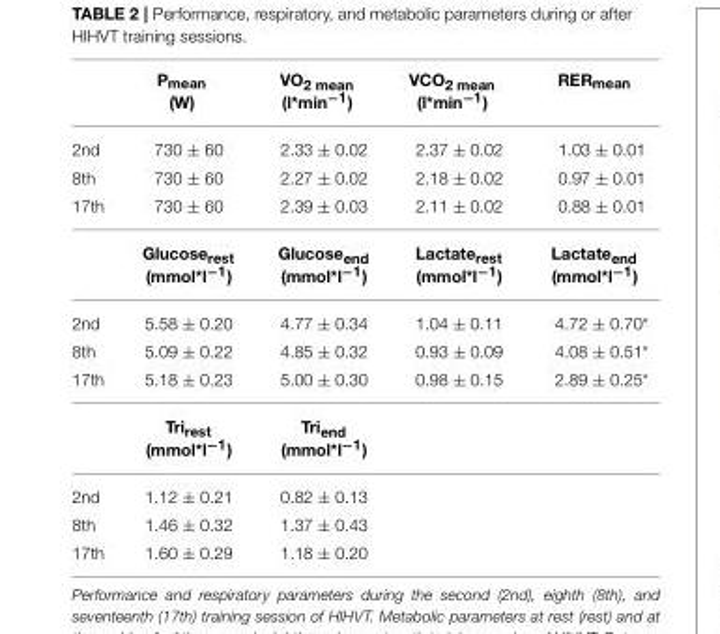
<table><thead><tr><td></td><td>P<sub>mean</sub> (W)</td><td>VO<sub>2 mean</sub> (l*min<sup>−1</sup>)</td><td>VCO<sub>2 mean</sub> (l*min<sup>−1</sup>)</td><td>RER<sub>mean</sub></td></tr></thead><tbody><tr><td>2nd</td><td>730 ± 60</td><td>2.33 ± 0.02</td><td>2.37 ± 0.02</td><td>1.03 ± 0.01</td></tr><tr><td>8th</td><td>730 ± 60</td><td>2.27 ± 0.02</td><td>2.18 ± 0.02</td><td>0.97 ± 0.01</td></tr><tr><td rowspan="2">17th</td><td>730 ± 60</td><td>2.39 ± 0.03</td><td>2.11 ± 0.02</td><td>0.88 ± 0.01</td></tr><tr><td>Glucose<sub>rest</sub> (mmol*l<sup>−1</sup>)</td><td>Glucose<sub>end</sub> (mmol*l<sup>−1</sup>)</td><td>Lactate<sub>rest</sub> (mmol*l<sup>−1</sup>)</td><td>Lactate<sub>end</sub> (mmol*l<sup>−1</sup>)</td></tr><tr><td>2nd</td><td>5.58 ± 0.20</td><td>4.77 ± 0.34</td><td>1.04 ± 0.11</td><td>4.72 ± 0.70*</td></tr><tr><td>8th</td><td>5.09 ± 0.22</td><td>4.85 ± 0.32</td><td>0.93 ± 0.09</td><td>4.08 ± 0.51*</td></tr><tr><td rowspan="2">17th</td><td>5.18 ± 0.23</td><td>5.00 ± 0.30</td><td>0.98 ± 0.15</td><td>2.89 ± 0.25*</td></tr><tr><td>Tri<sub>rest</sub> (mmol*l<sup>−1</sup>)</td><td>Tri<sub>end</sub> (mmol*l<sup>−1</sup>)</td><td></td><td></td></tr><tr><td>2nd</td><td>1.12 ± 0.21</td><td>0.82 ± 0.13</td><td></td><td></td></tr><tr><td>8th</td><td>1.46 ± 0.32</td><td>1.37 ± 0.43</td><td></td><td></td></tr><tr><td>17th</td><td>1.60 ± 0.29</td><td>1.18 ± 0.20</td><td></td><td></td></tr></tbody></table>